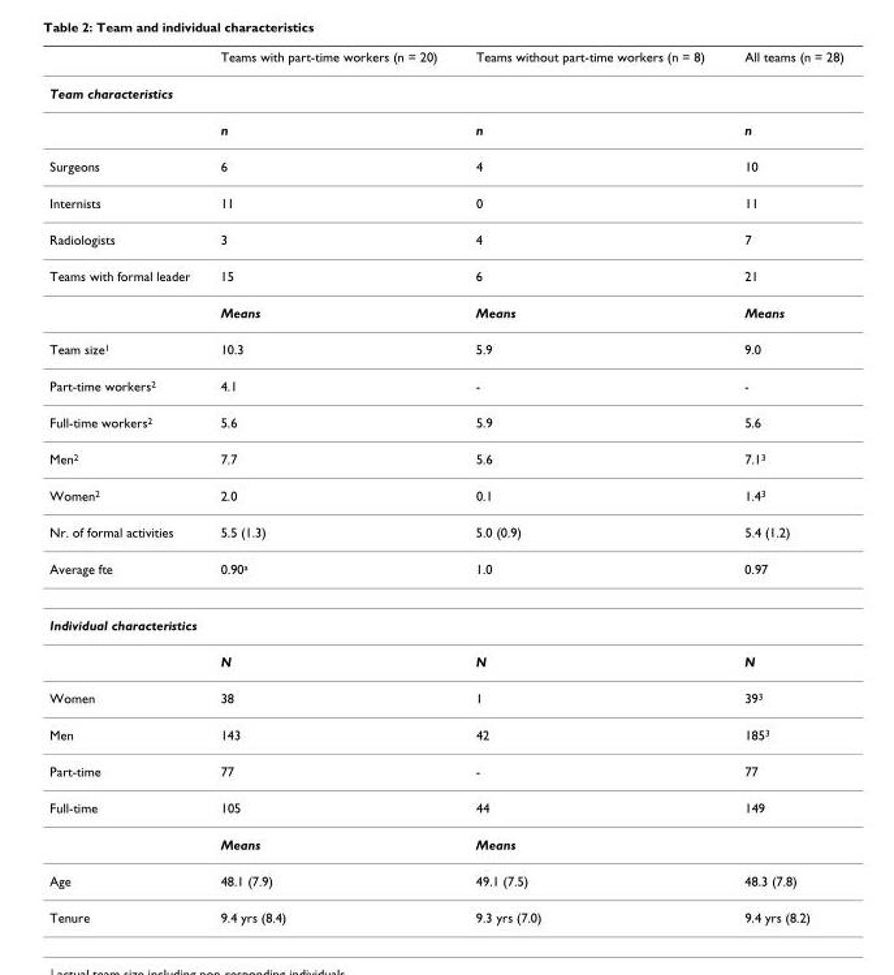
<table><thead><tr><td></td><td>Teams with part-time workers (n = 20)</td><td>Teams without part-time workers (n = 8)</td><td>All teams (n = 28)</td></tr></thead><tbody><tr><td colspan="4">Team characteristics</td></tr><tr><td></td><td>n</td><td>n</td><td>n</td></tr><tr><td>Surgeons</td><td>6</td><td>4</td><td>10</td></tr><tr><td>Internists</td><td>11</td><td>0</td><td>11</td></tr><tr><td>Radiologists</td><td>3</td><td>4</td><td>7</td></tr><tr><td rowspan="2">Teams with formal leader</td><td>15</td><td>6</td><td>21</td></tr><tr><td>Means</td><td>Means</td><td>Means</td></tr><tr><td>Team size<sup>1</sup></td><td>10.3</td><td>5.9</td><td>9.0</td></tr><tr><td>Part-time workers<sup>2</sup></td><td>4.1</td><td>-</td><td>-</td></tr><tr><td>Full-time workers<sup>2</sup></td><td>5.6</td><td>5.9</td><td>5.6</td></tr><tr><td>Men<sup>2</sup></td><td>7.7</td><td>5.6</td><td>7.1<sup>3</sup></td></tr><tr><td>Women<sup>2</sup></td><td>2.0</td><td>0.1</td><td>1.4<sup>3</sup></td></tr><tr><td>Nr. of formal activities</td><td>5.5 (1.3)</td><td>5.0 (0.9)</td><td>5.4 (1.2)</td></tr><tr><td>Average fte</td><td>0.90<sup>a</sup></td><td>1.0</td><td>0.97</td></tr><tr><td colspan="4">Individual characteristics</td></tr><tr><td></td><td>N</td><td>N</td><td>N</td></tr><tr><td>Women</td><td>38</td><td>1</td><td>39<sup>3</sup></td></tr><tr><td>Men</td><td>143</td><td>42</td><td>185<sup>3</sup></td></tr><tr><td>Part-time</td><td>77</td><td>-</td><td>77</td></tr><tr><td rowspan="2">Full-time</td><td>105</td><td>44</td><td>149</td></tr><tr><td>Means</td><td>Means</td><td></td></tr><tr><td>Age</td><td>48.1 (7.9)</td><td>49.1 (7.5)</td><td>48.3 (7.8)</td></tr><tr><td>Tenure</td><td>9.4 yrs (8.4)</td><td>9.3 yrs (7.0)</td><td>9.4 yrs (8.2)</td></tr></tbody></table>